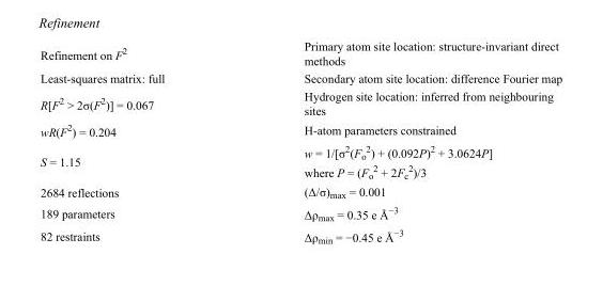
<table><tbody><tr><td>Refinement on F<sup>2</sup></td><td>Primary atom site location: structure-invariant direct methods</td></tr><tr><td>Least-squares matrix: full</td><td>Secondary atom site location: difference Fourier map</td></tr><tr><td>R[F<sup>2</sup> &gt; 2σ(F<sup>2</sup>)] = 0.067</td><td>Hydrogen site location: inferred from neighbouring sites</td></tr><tr><td>wR(F<sup>2</sup>) = 0.204</td><td>H-atom parameters constrained</td></tr><tr><td>S = 1.15</td><td>w = 1/[σ<sup>2</sup>(F<sub>o</sub> <sup>2</sup>) + (0.092P)<sup>2</sup> + 3.0624P] where P = (F<sub>o</sub> <sup>2</sup> + 2F<sub>c</sub> <sup>2</sup>)/3</td></tr><tr><td>2684 reflections</td><td>(Δ/σ)<sub>max</sub> = 0.001</td></tr><tr><td>189 parameters</td><td>Δρ<sub>max</sub> = 0.35 e Å<sup>−3</sup></td></tr><tr><td>82 restraints</td><td>Δρ<sub>min</sub> = −0.45 e Å<sup>−3</sup></td></tr></tbody></table>